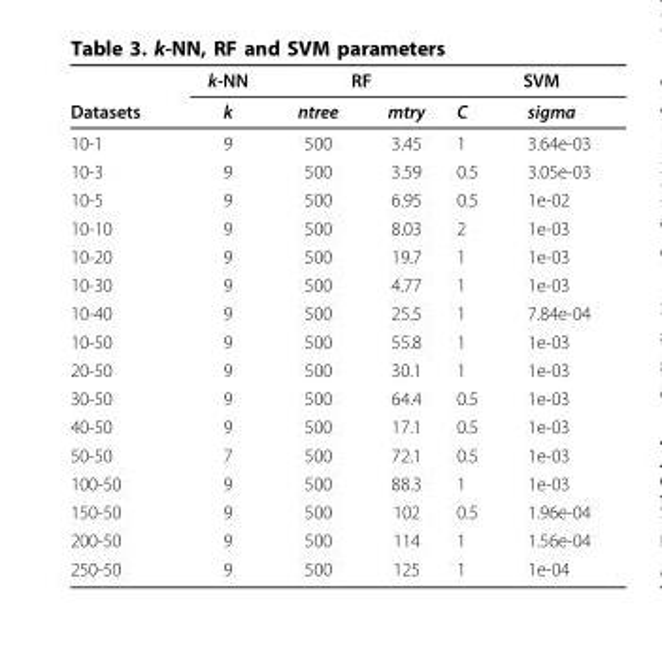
<table><thead><tr><td rowspan="2">Datasets</td><td rowspan="2">k-NN k</td><td colspan="2">RF</td><td colspan="2">SVM</td></tr><tr><td>ntree</td><td>mtry</td><td>C</td><td>sigma</td></tr></thead><tbody><tr><td>10-1</td><td>9</td><td>500</td><td>3.45</td><td>1</td><td>3.64e-03</td></tr><tr><td>10-3</td><td>9</td><td>500</td><td>3.59</td><td>0.5</td><td>3.05e-03</td></tr><tr><td>10-5</td><td>9</td><td>500</td><td>6.95</td><td>0.5</td><td>1e-02</td></tr><tr><td>10-10</td><td>9</td><td>500</td><td>8.03</td><td>2</td><td>1e-03</td></tr><tr><td>10-20</td><td>9</td><td>500</td><td>19.7</td><td>1</td><td>1e-03</td></tr><tr><td>10-30</td><td>9</td><td>500</td><td>4.77</td><td>1</td><td>1e-03</td></tr><tr><td>10-40</td><td>9</td><td>500</td><td>25.5</td><td>1</td><td>7.84e-04</td></tr><tr><td>10-50</td><td>9</td><td>500</td><td>55.8</td><td>1</td><td>1e-03</td></tr><tr><td>20-50</td><td>9</td><td>500</td><td>30.1</td><td>1</td><td>1e-03</td></tr><tr><td>30-50</td><td>9</td><td>500</td><td>64.4</td><td>0.5</td><td>1e-03</td></tr><tr><td>40-50</td><td>9</td><td>500</td><td>17.1</td><td>0.5</td><td>1e-03</td></tr><tr><td>50-50</td><td>7</td><td>500</td><td>72.1</td><td>0.5</td><td>1e-03</td></tr><tr><td>100-50</td><td>9</td><td>500</td><td>88.3</td><td>1</td><td>1e-03</td></tr><tr><td>150-50</td><td>9</td><td>500</td><td>102</td><td>0.5</td><td>1.96e-04</td></tr><tr><td>200-50</td><td>9</td><td>500</td><td>114</td><td>1</td><td>1.56e-04</td></tr><tr><td>250-50</td><td>9</td><td>500</td><td>125</td><td>1</td><td>1e-04</td></tr></tbody></table>